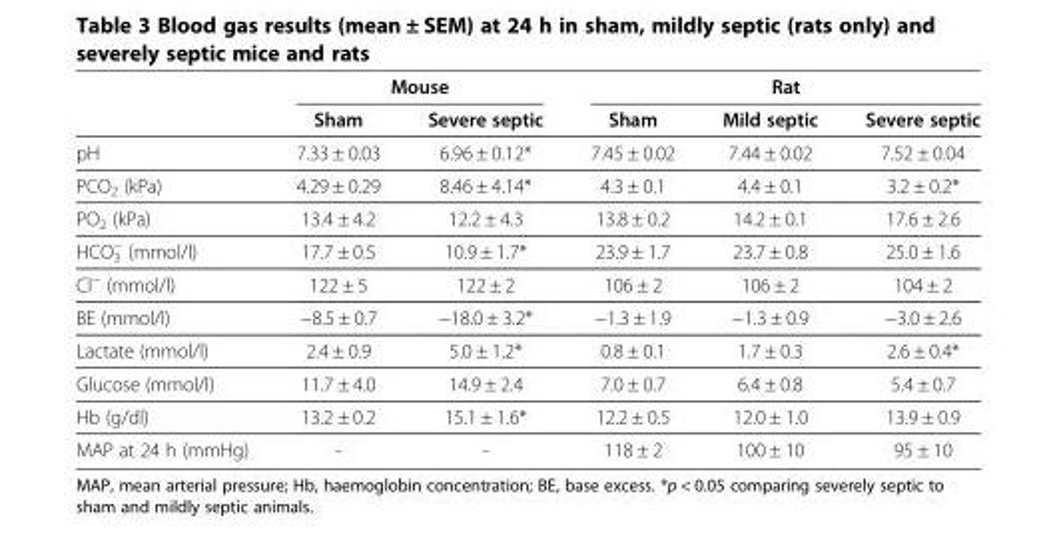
<table><thead><tr><td rowspan="2"></td><td colspan="2">Mouse</td><td colspan="3">Rat</td></tr><tr><td>Sham</td><td>Severe septic</td><td>Sham</td><td>Mild septic</td><td>Severe septic</td></tr></thead><tbody><tr><td>pH</td><td>7.33 ± 0.03</td><td>6.96 ± 0.12*</td><td>7.45 ± 0.02</td><td>7.44 ± 0.02</td><td>7.52 ± 0.04</td></tr><tr><td>PCO<sub>2</sub> (kPa)</td><td>4.29 ± 0.29</td><td>8.46 ± 4.14*</td><td>4.3 ± 0.1</td><td>4.4 ± 0.1</td><td>3.2 ± 0.2*</td></tr><tr><td>PO<sub>2</sub> (kPa)</td><td>13.4 ± 4.2</td><td>12.2 ± 4.3</td><td>13.8 ± 0.2</td><td>14.2 ± 0.1</td><td>17.6 ± 2.6</td></tr><tr><td>HCO<sub>3</sub> <sup>−</sup> (mmol/l)</td><td>17.7 ± 0.5</td><td>10.9 ± 1.7*</td><td>23.9 ± 1.7</td><td>23.7 ± 0.8</td><td>25.0 ± 1.6</td></tr><tr><td>Cl<sup>−</sup> (mmol/l)</td><td>122 ± 5</td><td>122 ± 2</td><td>106 ± 2</td><td>106 ± 2</td><td>104 ± 2</td></tr><tr><td>BE (mmol/l)</td><td>−8.5 ± 0.7</td><td>−18.0 ± 3.2*</td><td>−1.3 ± 1.9</td><td>−1.3 ± 0.9</td><td>−3.0 ± 2.6</td></tr><tr><td>Lactate (mmol/l)</td><td>2.4 ± 0.9</td><td>5.0 ± 1.2*</td><td>0.8 ± 0.1</td><td>1.7 ± 0.3</td><td>2.6 ± 0.4*</td></tr><tr><td>Glucose (mmol/l)</td><td>11.7 ± 4.0</td><td>14.9 ± 2.4</td><td>7.0 ± 0.7</td><td>6.4 ± 0.8</td><td>5.4 ± 0.7</td></tr><tr><td>Hb (g/dl)</td><td>13.2 ± 0.2</td><td>15.1 ± 1.6*</td><td>12.2 ± 0.5</td><td>12.0 ± 1.0</td><td>13.9 ± 0.9</td></tr><tr><td>MAP at 24 h (mmHg)</td><td>-</td><td>-</td><td>118 ± 2</td><td>100 ± 10</td><td>95 ± 10</td></tr></tbody></table>